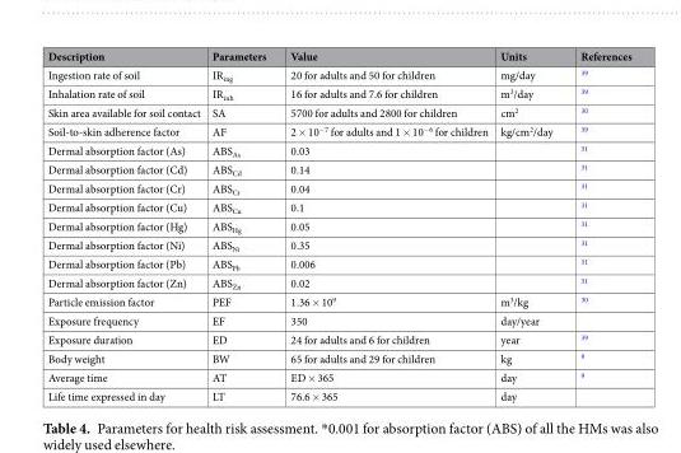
<table><thead><tr><td>Description</td><td>Parameters</td><td>Value</td><td>Units</td><td>References</td></tr></thead><tbody><tr><td>Ingestion rate of soil</td><td>IR<sub>ing</sub></td><td>20 for adults and 50 for children</td><td>mg/day</td><td><sup>39</sup></td></tr><tr><td>Inhalation rate of soil</td><td>IR<sub>inh</sub></td><td>16 for adults and 7.6 for children</td><td>m<sup>3</sup>/day</td><td><sup>39</sup></td></tr><tr><td>Skin area available for soil contact</td><td>SA</td><td>5700 for adults and 2800 for children</td><td>cm<sup>2</sup></td><td><sup>30</sup></td></tr><tr><td>Soil-to-skin adherence factor</td><td>AF</td><td>2 × 10<sup>−7</sup> for adults and 1 × 10<sup>−6</sup> for children</td><td>kg/cm<sup>2</sup>/day</td><td><sup>39</sup></td></tr><tr><td>Dermal absorption factor (As)</td><td>ABS<sub>As</sub></td><td>0.03</td><td></td><td><sup>31</sup></td></tr><tr><td>Dermal absorption factor (Cd)</td><td>ABS<sub>Cd</sub></td><td>0.14</td><td></td><td><sup>31</sup></td></tr><tr><td>Dermal absorption factor (Cr)</td><td>ABS<sub>Cr</sub></td><td>0.04</td><td></td><td><sup>31</sup></td></tr><tr><td>Dermal absorption factor (Cu)</td><td>ABS<sub>Cu</sub></td><td>0.1</td><td></td><td><sup>31</sup></td></tr><tr><td>Dermal absorption factor (Hg)</td><td>ABS<sub>Hg</sub></td><td>0.05</td><td></td><td><sup>31</sup></td></tr><tr><td>Dermal absorption factor (Ni)</td><td>ABS<sub>Ni</sub></td><td>0.35</td><td></td><td><sup>31</sup></td></tr><tr><td>Dermal absorption factor (Pb)</td><td>ABS<sub>Pb</sub></td><td>0.006</td><td></td><td><sup>31</sup></td></tr><tr><td>Dermal absorption factor (Zn)</td><td>ABS<sub>Zn</sub></td><td>0.02</td><td></td><td><sup>31</sup></td></tr><tr><td>Particle emission factor</td><td>PEF</td><td>1.36 × 10<sup>9</sup></td><td>m<sup>3</sup>/kg</td><td><sup>30</sup></td></tr><tr><td>Exposure frequency</td><td>EF</td><td>350</td><td>day/year</td><td></td></tr><tr><td>Exposure duration</td><td>ED</td><td>24 for adults and 6 for children</td><td>year</td><td><sup>39</sup></td></tr><tr><td>Body weight</td><td>BW</td><td>65 for adults and 29 for children</td><td>kg</td><td><sup>9</sup></td></tr><tr><td>Average time</td><td>AT</td><td>ED × 365</td><td>day</td><td><sup>9</sup></td></tr><tr><td>Life time expressed in day</td><td>LT</td><td>76.6 × 365</td><td>day</td><td></td></tr></tbody></table>